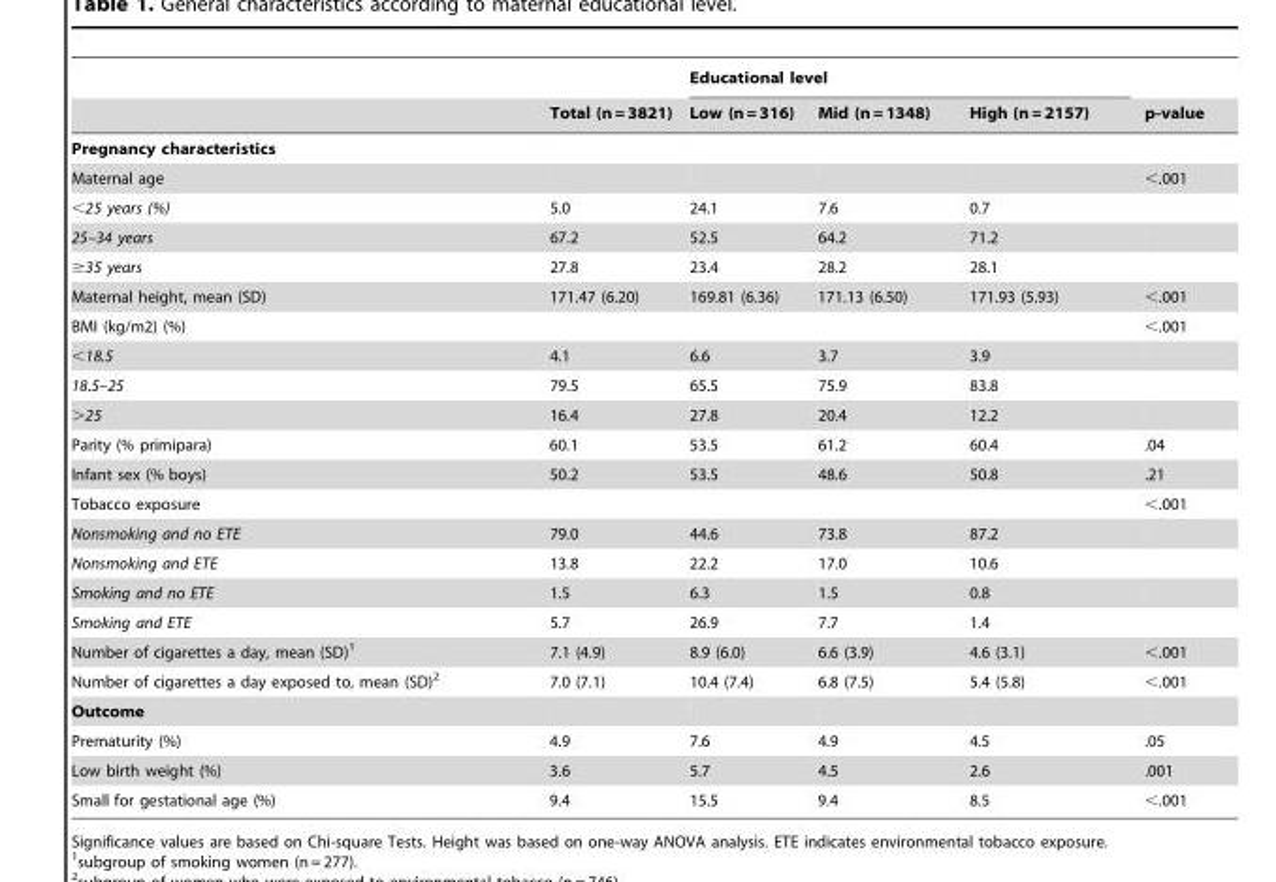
<table><thead><tr><td rowspan="2"></td><td rowspan="2">Total (n = 3821)</td><td colspan="3">Educational level</td><td rowspan="2">p-value</td></tr><tr><td>Low (n = 316)</td><td>Mid (n = 1348)</td><td>High (n = 2157)</td></tr></thead><tbody><tr><td colspan="6">Pregnancy characteristics</td></tr><tr><td>Maternal age</td><td></td><td></td><td></td><td></td><td>&lt;.001</td></tr><tr><td>&lt;25 years (%)</td><td>5.0</td><td>24.1</td><td>7.6</td><td>0.7</td><td></td></tr><tr><td>25–34 years</td><td>67.2</td><td>52.5</td><td>64.2</td><td>71.2</td><td></td></tr><tr><td>≥35 years</td><td>27.8</td><td>23.4</td><td>28.2</td><td>28.1</td><td></td></tr><tr><td>Maternal height, mean (SD)</td><td>171.47 (6.20)</td><td>169.81 (6.36)</td><td>171.13 (6.50)</td><td>171.93 (5.93)</td><td>&lt;.001</td></tr><tr><td>BMI (kg/m2) (%)</td><td></td><td></td><td></td><td></td><td>&lt;.001</td></tr><tr><td>&lt;18.5</td><td>4.1</td><td>6.6</td><td>3.7</td><td>3.9</td><td></td></tr><tr><td>18.5–25</td><td>79.5</td><td>65.5</td><td>75.9</td><td>83.8</td><td></td></tr><tr><td>&gt;25</td><td>16.4</td><td>27.8</td><td>20.4</td><td>12.2</td><td></td></tr><tr><td>Parity (% primipara)</td><td>60.1</td><td>53.5</td><td>61.2</td><td>60.4</td><td>.04</td></tr><tr><td>Infant sex (% boys)</td><td>50.2</td><td>53.5</td><td>48.6</td><td>50.8</td><td>.21</td></tr><tr><td>Tobacco exposure</td><td></td><td></td><td></td><td></td><td>&lt;.001</td></tr><tr><td>Nonsmoking and no ETE</td><td>79.0</td><td>44.6</td><td>73.8</td><td>87.2</td><td></td></tr><tr><td>Nonsmoking and ETE</td><td>13.8</td><td>22.2</td><td>17.0</td><td>10.6</td><td></td></tr><tr><td>Smoking and no ETE</td><td>1.5</td><td>6.3</td><td>1.5</td><td>0.8</td><td></td></tr><tr><td>Smoking and ETE</td><td>5.7</td><td>26.9</td><td>7.7</td><td>1.4</td><td></td></tr><tr><td>Number of cigarettes a day, mean (SD)<sup>1</sup></td><td>7.1 (4.9)</td><td>8.9 (6.0)</td><td>6.6 (3.9)</td><td>4.6 (3.1)</td><td>&lt;.001</td></tr><tr><td>Number of cigarettes a day exposed to, mean (SD)<sup>2</sup></td><td>7.0 (7.1)</td><td>10.4 (7.4)</td><td>6.8 (7.5)</td><td>5.4 (5.8)</td><td>&lt;.001</td></tr><tr><td colspan="6">Outcome</td></tr><tr><td>Prematurity (%)</td><td>4.9</td><td>7.6</td><td>4.9</td><td>4.5</td><td>.05</td></tr><tr><td>Low birth weight (%)</td><td>3.6</td><td>5.7</td><td>4.5</td><td>2.6</td><td>.001</td></tr><tr><td>Small for gestational age (%)</td><td>9.4</td><td>15.5</td><td>9.4</td><td>8.5</td><td>&lt;.001</td></tr></tbody></table>